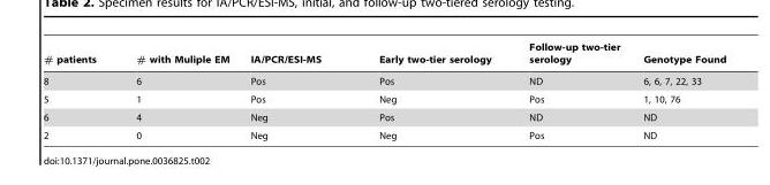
<table><thead><tr><td># patients</td><td># with Muliple EM</td><td>IA/PCR/ESI-MS</td><td>Early two-tier serology</td><td>Follow-up two-tier serology</td><td>Genotype Found</td></tr></thead><tbody><tr><td>8</td><td>6</td><td>Pos</td><td>Pos</td><td>ND</td><td>6, 6, 7, 22, 33</td></tr><tr><td>5</td><td>1</td><td>Pos</td><td>Neg</td><td>Pos</td><td>1, 10, 76</td></tr><tr><td>6</td><td>4</td><td>Neg</td><td>Pos</td><td>ND</td><td>ND</td></tr><tr><td>2</td><td>0</td><td>Neg</td><td>Neg</td><td>Pos</td><td>ND</td></tr></tbody></table>